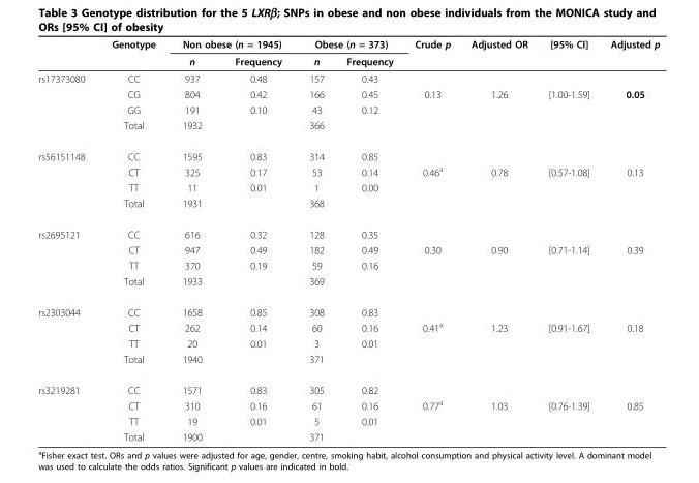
<table><thead><tr><td rowspan="2"></td><td rowspan="2">Genotype</td><td colspan="2">Non obese (n = 1945)</td><td colspan="2">Obese (n = 373)</td><td rowspan="2">Crude p</td><td rowspan="2">Adjusted OR</td><td rowspan="2">[95% CI]</td><td rowspan="2">Adjusted p</td></tr><tr><td>n</td><td>Frequency</td><td>n</td><td>Frequency</td></tr></thead><tbody><tr><td rowspan="4">rs17373080</td><td>CC</td><td>937</td><td>0.48</td><td>157</td><td>0.43</td><td></td><td></td><td></td><td></td></tr><tr><td>CG</td><td>804</td><td>0.42</td><td>166</td><td>0.45</td><td>0.13</td><td>1.26</td><td>[1.00-1.59]</td><td>0.05</td></tr><tr><td>GG</td><td>191</td><td>0.10</td><td>43</td><td>0.12</td><td></td><td></td><td></td><td></td></tr><tr><td>Total</td><td>1932</td><td></td><td>366</td><td></td><td></td><td></td><td></td><td></td></tr><tr><td rowspan="4">rs56151148</td><td>CC</td><td>1595</td><td>0.83</td><td>314</td><td>0.85</td><td></td><td></td><td></td><td></td></tr><tr><td>CT</td><td>325</td><td>0.17</td><td>53</td><td>0.14</td><td>0.46<sup>a</sup></td><td>0.78</td><td>[0.57-1.08]</td><td>0.13</td></tr><tr><td>TT</td><td>11</td><td>0.01</td><td>1</td><td>0.00</td><td></td><td></td><td></td><td></td></tr><tr><td>Total</td><td>1931</td><td></td><td>368</td><td></td><td></td><td></td><td></td><td></td></tr><tr><td rowspan="4">rs2695121</td><td>CC</td><td>616</td><td>0.32</td><td>128</td><td>0.35</td><td></td><td></td><td></td><td></td></tr><tr><td>CT</td><td>947</td><td>0.49</td><td>182</td><td>0.49</td><td>0.30</td><td>0.90</td><td>[0.71-1.14]</td><td>0.39</td></tr><tr><td>TT</td><td>370</td><td>0.19</td><td>59</td><td>0.16</td><td></td><td></td><td></td><td></td></tr><tr><td>Total</td><td>1933</td><td></td><td>369</td><td></td><td></td><td></td><td></td><td></td></tr><tr><td rowspan="4">rs2303044</td><td>CC</td><td>1658</td><td>0.85</td><td>308</td><td>0.83</td><td></td><td></td><td></td><td></td></tr><tr><td>CT</td><td>262</td><td>0.14</td><td>60</td><td>0.16</td><td>0.41<sup>a</sup></td><td>1.23</td><td>[0.91-1.67]</td><td>0.18</td></tr><tr><td>TT</td><td>20</td><td>0.01</td><td>3</td><td>0.01</td><td></td><td></td><td></td><td></td></tr><tr><td>Total</td><td>1940</td><td></td><td>371</td><td></td><td></td><td></td><td></td><td></td></tr><tr><td rowspan="4">rs3219281</td><td>CC</td><td>1571</td><td>0.83</td><td>305</td><td>0.82</td><td></td><td></td><td></td><td></td></tr><tr><td>CT</td><td>310</td><td>0.16</td><td>61</td><td>0.16</td><td>0.77<sup>a</sup></td><td>1.03</td><td>[0.76-1.39]</td><td>0.85</td></tr><tr><td>TT</td><td>19</td><td>0.01</td><td>5</td><td>0.01</td><td></td><td></td><td></td><td></td></tr><tr><td>Total</td><td>1900</td><td></td><td>371</td><td></td><td></td><td></td><td></td><td></td></tr></tbody></table>